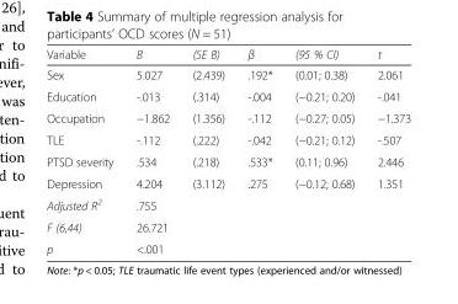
<table><thead><tr><td>Variable</td><td>B</td><td>(SE B)</td><td>β</td><td>(95 % CI)</td><td>t</td></tr></thead><tbody><tr><td>Sex</td><td>5.027</td><td>(2.439)</td><td>.192*</td><td>(0.01; 0.38)</td><td>2.061</td></tr><tr><td>Education</td><td>-.013</td><td>(.314)</td><td>-.004</td><td>(−0.21; 0.20)</td><td>-.041</td></tr><tr><td>Occupation</td><td>−1.862</td><td>(1.356)</td><td>-.112</td><td>(−0.27; 0.05)</td><td>−1.373</td></tr><tr><td>TLE</td><td>-.112</td><td>(.222)</td><td>-.042</td><td>(−0.21; 0.12)</td><td>-.507</td></tr><tr><td>PTSD severity</td><td>.534</td><td>(.218)</td><td>.533*</td><td>(0.11; 0.96)</td><td>2.446</td></tr><tr><td>Depression</td><td>4.204</td><td>(3.112)</td><td>.275</td><td>(−0.12; 0.68)</td><td>1.351</td></tr><tr><td>Adjusted R<sup>2</sup></td><td colspan="3">.755</td><td></td><td></td></tr><tr><td>F (6,44)</td><td colspan="3">26.721</td><td></td><td></td></tr><tr><td>p</td><td colspan="3">&lt;.001</td><td></td><td></td></tr></tbody></table>